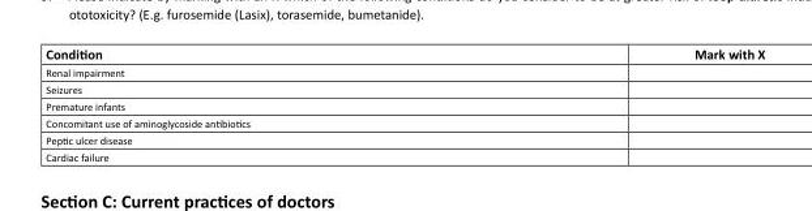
<table><thead><tr><td>Condition</td><td>Mark with X</td></tr></thead><tbody><tr><td colspan="2">Renal impairment</td></tr><tr><td colspan="2">Seizures</td></tr><tr><td colspan="2">Premature infants</td></tr><tr><td colspan="2">Concomitant use of aminoglycoside antibiotics</td></tr><tr><td colspan="2">Peptic ulcer disease</td></tr><tr><td>Cardiac failure</td><td></td></tr></tbody></table>